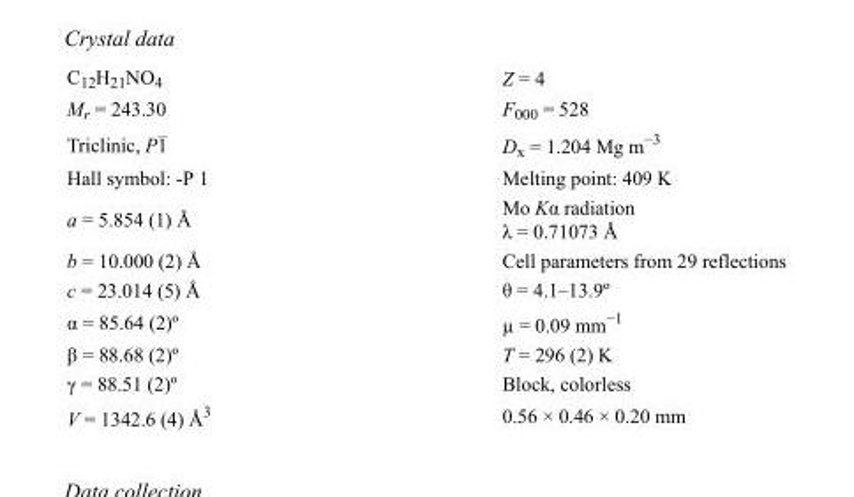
<table><tbody><tr><td>C<sub>12</sub>H<sub>21</sub>NO<sub>4</sub></td><td>Z = 4</td></tr><tr><td>M<sub>r</sub> = 243.30</td><td>F<sub>000</sub> = 528</td></tr><tr><td>Triclinic, P1</td><td>D<sub>x</sub> = 1.204 Mg m<sup>−3</sup></td></tr><tr><td>Hall symbol: -P 1</td><td>Melting point: 409 K</td></tr><tr><td>a = 5.854 (1) Å</td><td>Mo Kα radiation λ = 0.71073 Å</td></tr><tr><td>b = 10.000 (2) Å</td><td>Cell parameters from 29 reflections</td></tr><tr><td>c = 23.014 (5) Å</td><td>θ = 4.1–13.9º</td></tr><tr><td>α = 85.64 (2)º</td><td>µ = 0.09 mm<sup>−1</sup></td></tr><tr><td>β = 88.68 (2)º</td><td>T = 296 (2) K</td></tr><tr><td>γ = 88.51 (2)º</td><td>Block, colorless</td></tr><tr><td>V = 1342.6 (4) Å<sup>3</sup></td><td>0.56 × 0.46 × 0.20 mm</td></tr></tbody></table>